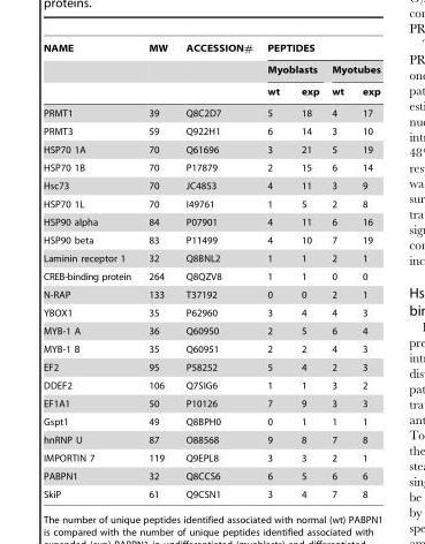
<table><thead><tr><td rowspan="3">NAME</td><td rowspan="3">MW</td><td rowspan="3">ACCESSION#</td><td colspan="4">PEPTIDES</td></tr><tr><td colspan="2">Myoblasts</td><td colspan="2">Myotubes</td></tr><tr><td>wt</td><td>exp</td><td>wt</td><td>exp</td></tr></thead><tbody><tr><td>PRMT1</td><td>39</td><td>Q8C2D7</td><td>5</td><td>18</td><td>4</td><td>17</td></tr><tr><td>PRMT3</td><td>59</td><td>Q922H1</td><td>6</td><td>14</td><td>3</td><td>10</td></tr><tr><td>HSP70 1A</td><td>70</td><td>Q61696</td><td>3</td><td>21</td><td>5</td><td>19</td></tr><tr><td>HSP70 1B</td><td>70</td><td>P17879</td><td>2</td><td>15</td><td>6</td><td>14</td></tr><tr><td>Hsc73</td><td>70</td><td>JC4853</td><td>4</td><td>11</td><td>3</td><td>9</td></tr><tr><td>HSP70 1L</td><td>70</td><td>I49761</td><td>1</td><td>5</td><td>2</td><td>8</td></tr><tr><td>HSP90 alpha</td><td>84</td><td>P07901</td><td>4</td><td>11</td><td>6</td><td>16</td></tr><tr><td>HSP90 beta</td><td>83</td><td>P11499</td><td>4</td><td>10</td><td>7</td><td>19</td></tr><tr><td>Laminin receptor 1</td><td>32</td><td>Q8BNL2</td><td>1</td><td>1</td><td>2</td><td>1</td></tr><tr><td>CREB-binding protein</td><td>264</td><td>Q8QZV8</td><td>1</td><td>1</td><td>0</td><td>0</td></tr><tr><td>N-RAP</td><td>133</td><td>T37192</td><td>0</td><td>0</td><td>2</td><td>1</td></tr><tr><td>YBOX1</td><td>35</td><td>P62960</td><td>3</td><td>4</td><td>4</td><td>3</td></tr><tr><td>MYB-1 A</td><td>36</td><td>Q60950</td><td>2</td><td>5</td><td>6</td><td>4</td></tr><tr><td>MYB-1 B</td><td>35</td><td>Q60951</td><td>2</td><td>2</td><td>4</td><td>3</td></tr><tr><td>EF2</td><td>95</td><td>P58252</td><td>5</td><td>4</td><td>2</td><td>3</td></tr><tr><td>DDEF2</td><td>106</td><td>Q7SIG6</td><td>1</td><td>1</td><td>3</td><td>2</td></tr><tr><td>EF1A1</td><td>50</td><td>P10126</td><td>7</td><td>9</td><td>3</td><td>3</td></tr><tr><td>Gspt1</td><td>49</td><td>Q8BPH0</td><td>0</td><td>1</td><td>1</td><td>1</td></tr><tr><td>hnRNP U</td><td>87</td><td>O88568</td><td>9</td><td>8</td><td>7</td><td>8</td></tr><tr><td>IMPORTIN 7</td><td>119</td><td>Q9EPL8</td><td>3</td><td>3</td><td>2</td><td>1</td></tr><tr><td>PABPN1</td><td>32</td><td>Q8CCS6</td><td>6</td><td>5</td><td>6</td><td>6</td></tr><tr><td>SkiP</td><td>61</td><td>Q9CSN1</td><td>3</td><td>4</td><td>7</td><td>8</td></tr></tbody></table>